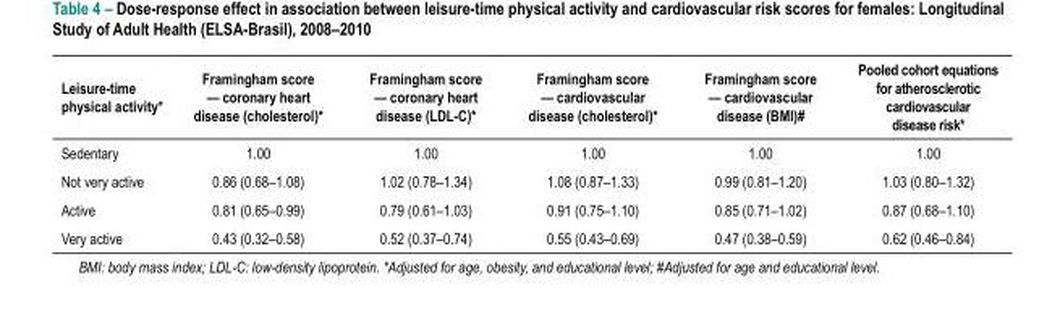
<table><thead><tr><td>Leisure-time physical activity*</td><td>Framingham score — coronary heart disease (cholesterol)*</td><td>Framingham score — coronary heart disease (LDL-C)*</td><td>Framingham score — cardiovascular disease (cholesterol)*</td><td>Framingham score — cardiovascular disease (BMI)#</td><td>Pooled cohort equations for atherosclerotic cardiovascular disease risk*</td></tr></thead><tbody><tr><td>Sedentary</td><td>1.00</td><td>1.00</td><td>1.00</td><td>1.00</td><td>1.00</td></tr><tr><td>Not very active</td><td>0.86 (0.68–1.08)</td><td>1.02 (0.78–1.34)</td><td>1.08 (0.87–1.33)</td><td>0.99 (0.81–1.20)</td><td>1.03 (0.80–1.32)</td></tr><tr><td>Active</td><td>0.81 (0.65–0.99)</td><td>0.79 (0.61–1.03)</td><td>0.91 (0.75–1.10)</td><td>0.85 (0.71–1.02)</td><td>0.87 (0.68–1.10)</td></tr><tr><td>Very active</td><td>0.43 (0.32–0.58)</td><td>0.52 (0.37–0.74)</td><td>0.55 (0.43–0.69)</td><td>0.47 (0.38–0.59)</td><td>0.62 (0.46–0.84)</td></tr></tbody></table>